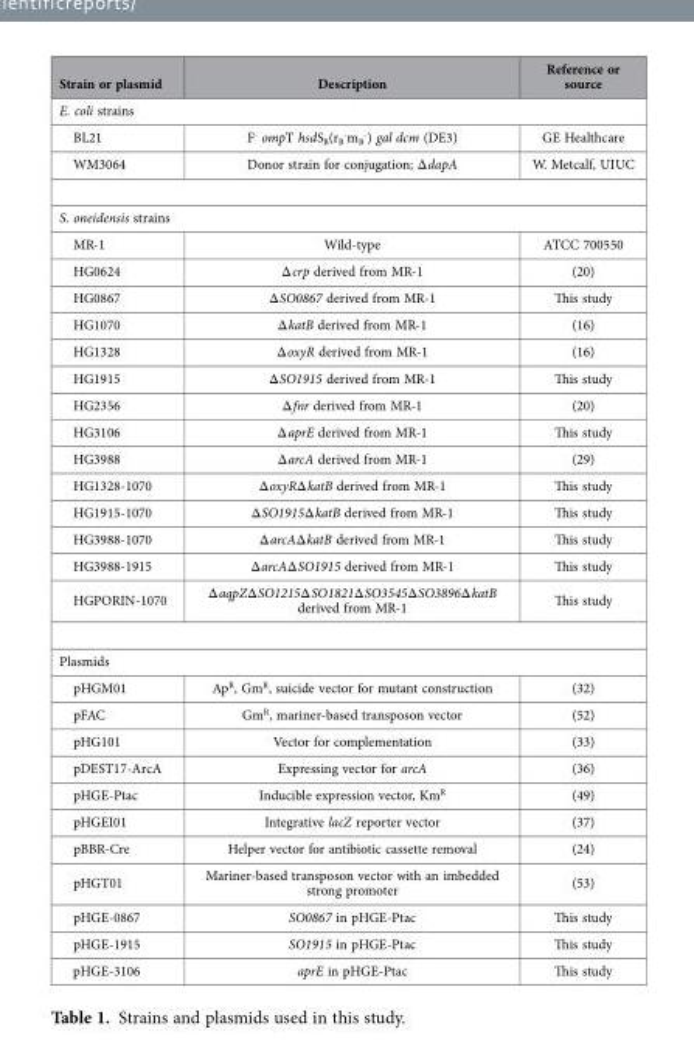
<table><thead><tr><td>Strain or plasmid</td><td>Description</td><td>Reference or source</td></tr></thead><tbody><tr><td colspan="3">E. coli strains</td></tr><tr><td>BL21</td><td>F<sup>-</sup> ompT hsdS<sub>B</sub>(r<sub>B</sub> <sup>-</sup>m<sub>B</sub> <sup>-</sup>) gal dcm (DE3)</td><td>GE Healthcare</td></tr><tr><td>WM3064</td><td>Donor strain for conjugation; Δ dapA</td><td>W. Metcalf, UIUC</td></tr><tr><td colspan="3">S. oneidensis strains</td></tr><tr><td>MR-1</td><td>Wild-type</td><td>ATCC 700550</td></tr><tr><td>HG0624</td><td>Δ crp derived from MR-1</td><td>(20)</td></tr><tr><td>HG0867</td><td>Δ SO0867 derived from MR-1</td><td>This study</td></tr><tr><td>HG1070</td><td>Δ katB derived from MR-1</td><td>(16)</td></tr><tr><td>HG1328</td><td>Δ oxyR derived from MR-1</td><td>(16)</td></tr><tr><td>HG1915</td><td>Δ SO1915 derived from MR-1</td><td>This study</td></tr><tr><td>HG2356</td><td>Δ fnr derived from MR-1</td><td>(20)</td></tr><tr><td>HG3106</td><td>Δ aprE derived from MR-1</td><td>This study</td></tr><tr><td>HG3988</td><td>Δ arcA derived from MR-1</td><td>(29)</td></tr><tr><td>HG1328-1070</td><td>Δ oxyRΔ katB derived from MR-1</td><td>This study</td></tr><tr><td>HG1915-1070</td><td>Δ SO1915Δ katB derived from MR-1</td><td>This study</td></tr><tr><td>HG3988-1070</td><td>Δ arcAΔ katB derived from MR-1</td><td>This study</td></tr><tr><td>HG3988-1915</td><td>Δ arcAΔ SO1915 derived from MR-1</td><td>This study</td></tr><tr><td>HGPORIN-1070</td><td>Δ aqpZΔ SO1215Δ SO1821Δ SO3545Δ SO3896Δ katB derived from MR-1</td><td>This study</td></tr><tr><td colspan="3">Plasmids</td></tr><tr><td>pHGM01</td><td>Ap<sup>R</sup>, Gm<sup>R</sup>, suicide vector for mutant construction</td><td>(32)</td></tr><tr><td>pFAC</td><td>Gm<sup>R</sup>, mariner-based transposon vector</td><td>(52)</td></tr><tr><td>pHG101</td><td>Vector for complementation</td><td>(33)</td></tr><tr><td>pDEST17-ArcA</td><td>Expressing vector for arcA</td><td>(36)</td></tr><tr><td>pHGE-Ptac</td><td>Inducible expression vector, Km<sup>R</sup></td><td>(49)</td></tr><tr><td>pHGEI01</td><td>Integrative lacZ reporter vector</td><td>(37)</td></tr><tr><td>pBBR-Cre</td><td>Helper vector for antibiotic cassette removal</td><td>(24)</td></tr><tr><td>pHGT01</td><td>Mariner-based transposon vector with an imbedded strong promoter</td><td>(53)</td></tr><tr><td>pHGE-0867</td><td>SO0867 in pHGE-Ptac</td><td>This study</td></tr><tr><td>pHGE-1915</td><td>SO1915 in pHGE-Ptac</td><td>This study</td></tr><tr><td>pHGE-3106</td><td>aprE in pHGE-Ptac</td><td>This study</td></tr></tbody></table>